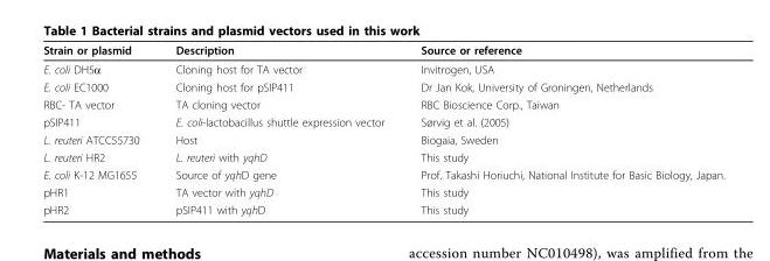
<table><thead><tr><td>Strain or plasmid</td><td>Description</td><td>Source or reference</td></tr></thead><tbody><tr><td>E. coli DH5α</td><td>Cloning host for TA vector</td><td>Invitrogen, USA</td></tr><tr><td>E. coli EC1000</td><td>Cloning host for pSIP411</td><td>Dr Jan Kok, University of Groningen, Netherlands</td></tr><tr><td>RBC- TA vector</td><td>TA cloning vector</td><td>RBC Bioscience Corp., Taiwan</td></tr><tr><td>pSIP411</td><td>E. coli-lactobacillus shuttle expression vector</td><td>Sørvig et al. (2005)</td></tr><tr><td>L. reuteri ATCC55730</td><td>Host</td><td>Biogaia, Sweden</td></tr><tr><td>L. reuteri HR2</td><td>L. reuteri with yqhD</td><td>This study</td></tr><tr><td>E. coli K-12 MG1655</td><td>Source of yqhD gene</td><td>Prof. Takashi Horiuchi, National Institute for Basic Biology, Japan.</td></tr><tr><td>pHR1</td><td>TA vector with yqhD</td><td>This study</td></tr><tr><td>pHR2</td><td>pSIP411 with yqhD</td><td>This study</td></tr></tbody></table>